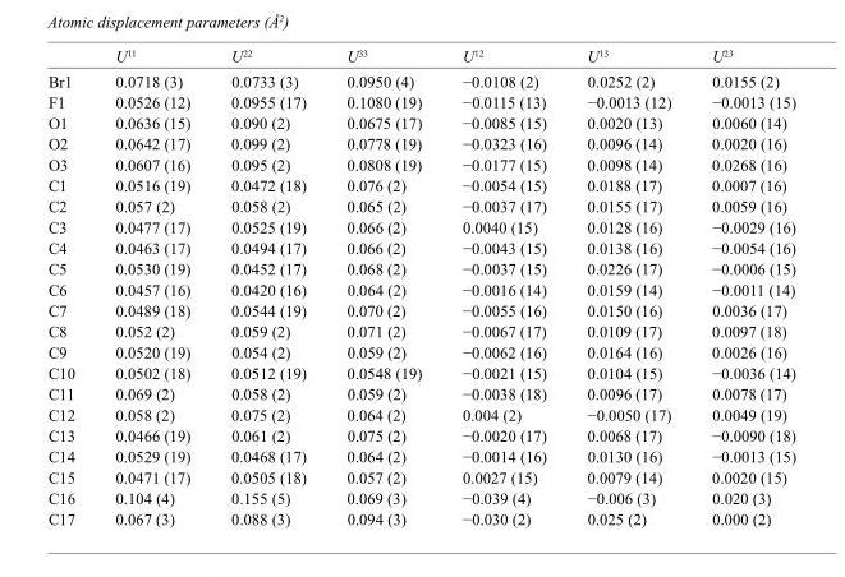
<table><thead><tr><td></td><td>U<sup>11</sup></td><td>U<sup>22</sup></td><td>U<sup>33</sup></td><td>U<sup>12</sup></td><td>U<sup>13</sup></td><td>U<sup>23</sup></td></tr></thead><tbody><tr><td>Br1</td><td>0.0718 (3)</td><td>0.0733 (3)</td><td>0.0950 (4)</td><td>−0.0108 (2)</td><td>0.0252 (2)</td><td>0.0155 (2)</td></tr><tr><td>F1</td><td>0.0526 (12)</td><td>0.0955 (17)</td><td>0.1080 (19)</td><td>−0.0115 (13)</td><td>−0.0013 (12)</td><td>−0.0013 (15)</td></tr><tr><td>O1</td><td>0.0636 (15)</td><td>0.090 (2)</td><td>0.0675 (17)</td><td>−0.0085 (15)</td><td>0.0020 (13)</td><td>0.0060 (14)</td></tr><tr><td>O2</td><td>0.0642 (17)</td><td>0.099 (2)</td><td>0.0778 (19)</td><td>−0.0323 (16)</td><td>0.0096 (14)</td><td>0.0020 (16)</td></tr><tr><td>O3</td><td>0.0607 (16)</td><td>0.095 (2)</td><td>0.0808 (19)</td><td>−0.0177 (15)</td><td>0.0098 (14)</td><td>0.0268 (16)</td></tr><tr><td>C1</td><td>0.0516 (19)</td><td>0.0472 (18)</td><td>0.076 (2)</td><td>−0.0054 (15)</td><td>0.0188 (17)</td><td>0.0007 (16)</td></tr><tr><td>C2</td><td>0.057 (2)</td><td>0.058 (2)</td><td>0.065 (2)</td><td>−0.0037 (17)</td><td>0.0155 (17)</td><td>0.0059 (16)</td></tr><tr><td>C3</td><td>0.0477 (17)</td><td>0.0525 (19)</td><td>0.066 (2)</td><td>0.0040 (15)</td><td>0.0128 (16)</td><td>−0.0029 (16)</td></tr><tr><td>C4</td><td>0.0463 (17)</td><td>0.0494 (17)</td><td>0.066 (2)</td><td>−0.0043 (15)</td><td>0.0138 (16)</td><td>−0.0054 (16)</td></tr><tr><td>C5</td><td>0.0530 (19)</td><td>0.0452 (17)</td><td>0.068 (2)</td><td>−0.0037 (15)</td><td>0.0226 (17)</td><td>−0.0006 (15)</td></tr><tr><td>C6</td><td>0.0457 (16)</td><td>0.0420 (16)</td><td>0.064 (2)</td><td>−0.0016 (14)</td><td>0.0159 (14)</td><td>−0.0011 (14)</td></tr><tr><td>C7</td><td>0.0489 (18)</td><td>0.0544 (19)</td><td>0.070 (2)</td><td>−0.0055 (16)</td><td>0.0150 (16)</td><td>0.0036 (17)</td></tr><tr><td>C8</td><td>0.052 (2)</td><td>0.059 (2)</td><td>0.071 (2)</td><td>−0.0067 (17)</td><td>0.0109 (17)</td><td>0.0097 (18)</td></tr><tr><td>C9</td><td>0.0520 (19)</td><td>0.054 (2)</td><td>0.059 (2)</td><td>−0.0062 (16)</td><td>0.0164 (16)</td><td>0.0026 (16)</td></tr><tr><td>C10</td><td>0.0502 (18)</td><td>0.0512 (19)</td><td>0.0548 (19)</td><td>−0.0021 (15)</td><td>0.0104 (15)</td><td>−0.0036 (14)</td></tr><tr><td>C11</td><td>0.069 (2)</td><td>0.058 (2)</td><td>0.059 (2)</td><td>−0.0038 (18)</td><td>0.0096 (17)</td><td>0.0078 (17)</td></tr><tr><td>C12</td><td>0.058 (2)</td><td>0.075 (2)</td><td>0.064 (2)</td><td>0.004 (2)</td><td>−0.0050 (17)</td><td>0.0049 (19)</td></tr><tr><td>C13</td><td>0.0466 (19)</td><td>0.061 (2)</td><td>0.075 (2)</td><td>−0.0020 (17)</td><td>0.0068 (17)</td><td>−0.0090 (18)</td></tr><tr><td>C14</td><td>0.0529 (19)</td><td>0.0468 (17)</td><td>0.064 (2)</td><td>−0.0014 (16)</td><td>0.0130 (16)</td><td>−0.0013 (15)</td></tr><tr><td>C15</td><td>0.0471 (17)</td><td>0.0505 (18)</td><td>0.057 (2)</td><td>0.0027 (15)</td><td>0.0079 (14)</td><td>0.0020 (15)</td></tr><tr><td>C16</td><td>0.104 (4)</td><td>0.155 (5)</td><td>0.069 (3)</td><td>−0.039 (4)</td><td>−0.006 (3)</td><td>0.020 (3)</td></tr><tr><td>C17</td><td>0.067 (3)</td><td>0.088 (3)</td><td>0.094 (3)</td><td>−0.030 (2)</td><td>0.025 (2)</td><td>0.000 (2)</td></tr></tbody></table>